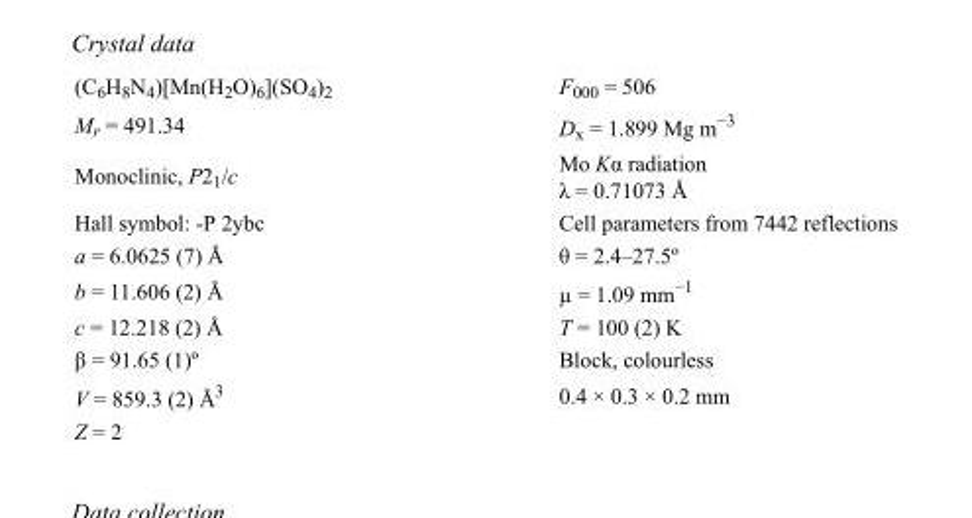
<table><tbody><tr><td>(C<sub>6</sub>H<sub>8</sub>N<sub>4</sub>)[Mn(H<sub>2</sub>O)<sub>6</sub>](SO<sub>4</sub>)<sub>2</sub></td><td>F<sub>000</sub> = 506</td></tr><tr><td>M<sub>r</sub> = 491.34</td><td>D<sub>x</sub> = 1.899 Mg m<sup>−3</sup></td></tr><tr><td>Monoclinic, P2<sub>1</sub>/c</td><td>Mo Kα radiation λ = 0.71073 Å</td></tr><tr><td>Hall symbol: -P 2ybc</td><td>Cell parameters from 7442 reflections</td></tr><tr><td>a = 6.0625 (7) Å</td><td>θ = 2.4–27.5º</td></tr><tr><td>b = 11.606 (2) Å</td><td>µ = 1.09 mm<sup>−1</sup></td></tr><tr><td>c = 12.218 (2) Å</td><td>T = 100 (2) K</td></tr><tr><td>β = 91.65 (1)º</td><td>Block, colourless</td></tr><tr><td>V = 859.3 (2) Å<sup>3</sup></td><td>0.4 × 0.3 × 0.2 mm</td></tr><tr><td>Z = 2</td><td></td></tr></tbody></table>